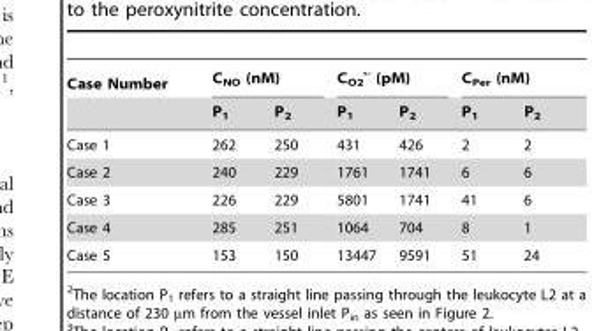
<table><thead><tr><td rowspan="2">Case Number</td><td colspan="2">C<sub>NO</sub> (nM)</td><td colspan="2">C<sub>O2</sub> <sup>•-</sup> (pM)</td><td colspan="2">C<sub>Per</sub> (nM)</td></tr><tr><td>P<sub>1</sub></td><td>P<sub>2</sub></td><td>P<sub>1</sub></td><td>P<sub>2</sub></td><td>P<sub>1</sub></td><td>P<sub>2</sub></td></tr></thead><tbody><tr><td>Case 1</td><td>262</td><td>250</td><td>431</td><td>426</td><td>2</td><td>2</td></tr><tr><td>Case 2</td><td>240</td><td>229</td><td>1761</td><td>1741</td><td>6</td><td>6</td></tr><tr><td>Case 3</td><td>226</td><td>229</td><td>5801</td><td>1741</td><td>41</td><td>6</td></tr><tr><td>Case 4</td><td>285</td><td>251</td><td>1064</td><td>704</td><td>8</td><td>1</td></tr><tr><td>Case 5</td><td>153</td><td>150</td><td>13447</td><td>9591</td><td>51</td><td>24</td></tr></tbody></table>